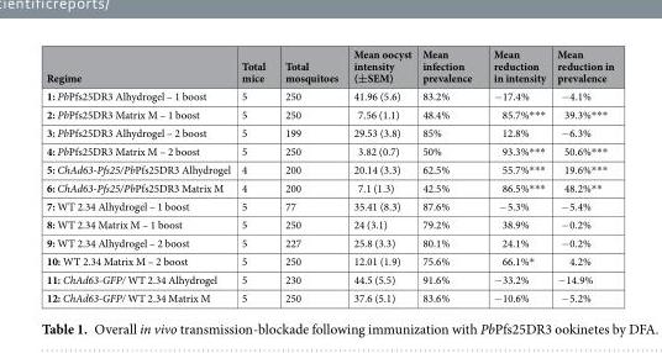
<table><thead><tr><td>Regime</td><td>Total mice</td><td>Total mosquitoes</td><td>Mean oocyst intensity (±SEM)</td><td>Mean infection prevalence</td><td>Mean reduction in intensity</td><td>Mean reduction in prevalence</td></tr></thead><tbody><tr><td>1: PbPfs25DR3 Alhydrogel – 1 boost</td><td>5</td><td>250</td><td>41.96 (5.6)</td><td>83.2%</td><td>−17.4%</td><td>−4.1%</td></tr><tr><td>2: PbPfs25DR3 Matrix M – 1 boost</td><td>5</td><td>250</td><td>7.56 (1.1)</td><td>48.4%</td><td>85.7%***</td><td>39.3%***</td></tr><tr><td>3: PbPfs25DR3 Alhydrogel – 2 boost</td><td>5</td><td>199</td><td>29.53 (3.8)</td><td>85%</td><td>12.8%</td><td>−6.3%</td></tr><tr><td>4: PbPfs25DR3 Matrix M – 2 boost</td><td>5</td><td>250</td><td>3.82 (0.7)</td><td>50%</td><td>93.3%***</td><td>50.6%***</td></tr><tr><td>5: ChAd63-Pfs25/PbPfs25DR3 Alhydrogel</td><td>4</td><td>200</td><td>20.14 (3.3)</td><td>62.5%</td><td>55.7%***</td><td>19.6%***</td></tr><tr><td>6: ChAd63-Pfs25/PbPfs25DR3 Matrix M</td><td>4</td><td>200</td><td>7.1 (1.3)</td><td>42.5%</td><td>86.5%***</td><td>48.2%**</td></tr><tr><td>7: WT 2.34 Alhydrogel – 1 boost</td><td>5</td><td>77</td><td>35.41 (8.3)</td><td>87.6%</td><td>−5.3%</td><td>−5.4%</td></tr><tr><td>8: WT 2.34 Matrix M – 1 boost</td><td>5</td><td>250</td><td>24 (3.1)</td><td>79.2%</td><td>38.9%</td><td>−0.2%</td></tr><tr><td>9: WT 2.34 Alhydrogel – 2 boost</td><td>5</td><td>227</td><td>25.8 (3.3)</td><td>80.1%</td><td>24.1%</td><td>−0.2%</td></tr><tr><td>10: WT 2.34 Matrix M – 2 boost</td><td>5</td><td>250</td><td>12.01 (1.9)</td><td>75.6%</td><td>66.1%*</td><td>4.2%</td></tr><tr><td>11: ChAd63-GFP/ WT 2.34 Alhydrogel</td><td>5</td><td>230</td><td>44.5 (5.5)</td><td>91.6%</td><td>−33.2%</td><td>−14.9%</td></tr><tr><td>12: ChAd63-GFP/ WT 2.34 Matrix M</td><td>5</td><td>250</td><td>37.6 (5.1)</td><td>83.6%</td><td>−10.6%</td><td>−5.2%</td></tr></tbody></table>